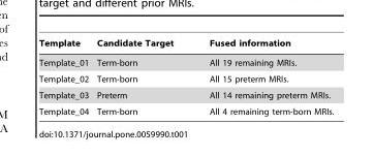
<table><thead><tr><td>Template</td><td>Candidate Target</td><td>Fused information</td></tr></thead><tbody><tr><td>Template_01</td><td>Term-born</td><td>All 19 remaining MRIs.</td></tr><tr><td>Template_02</td><td>Term-born</td><td>All 15 preterm MRIs.</td></tr><tr><td>Template_03</td><td>Preterm</td><td>All 14 remaining preterm MRIs.</td></tr><tr><td>Template_04</td><td>Term-born</td><td>All 4 remaining term-born MRIs.</td></tr></tbody></table>